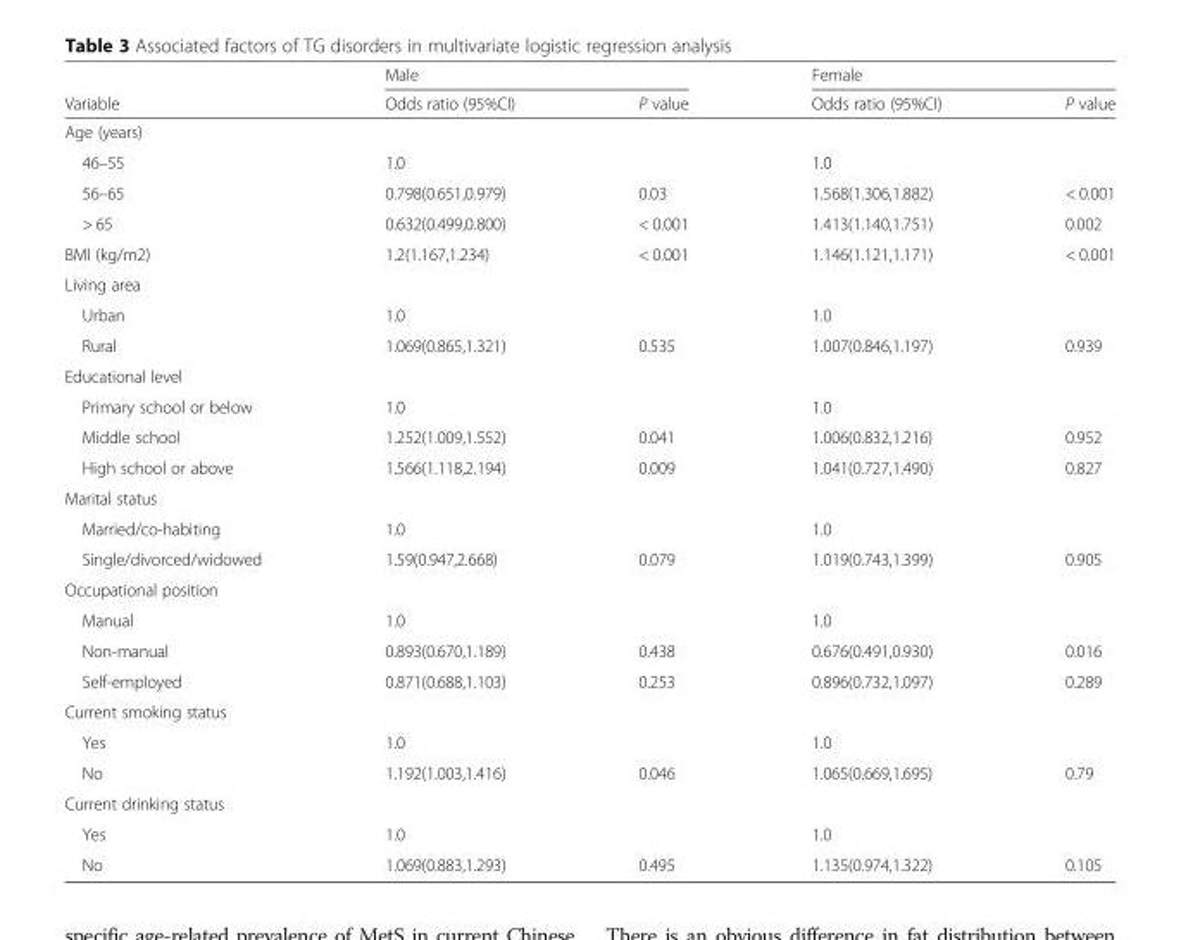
<table><thead><tr><td rowspan="2">Variable</td><td colspan="2">Male</td><td colspan="2">Female</td></tr><tr><td>Odds ratio (95%CI)</td><td>P value</td><td>Odds ratio (95%CI)</td><td>P value</td></tr></thead><tbody><tr><td colspan="5">Age (years)</td></tr><tr><td>46–55</td><td>1.0</td><td></td><td>1.0</td><td></td></tr><tr><td>56–65</td><td>0.798(0.651,0.979)</td><td>0.03</td><td>1.568(1.306,1.882)</td><td>&lt; 0.001</td></tr><tr><td>&gt; 65</td><td>0.632(0.499,0.800)</td><td>&lt; 0.001</td><td>1.413(1.140,1.751)</td><td>0.002</td></tr><tr><td>BMI (kg/m2)</td><td>1.2(1.167,1.234)</td><td>&lt; 0.001</td><td>1.146(1.121,1.171)</td><td>&lt; 0.001</td></tr><tr><td colspan="5">Living area</td></tr><tr><td>Urban</td><td>1.0</td><td></td><td>1.0</td><td></td></tr><tr><td>Rural</td><td>1.069(0.865,1.321)</td><td>0.535</td><td>1.007(0.846,1.197)</td><td>0.939</td></tr><tr><td colspan="5">Educational level</td></tr><tr><td>Primary school or below</td><td>1.0</td><td></td><td>1.0</td><td></td></tr><tr><td>Middle school</td><td>1.252(1.009,1.552)</td><td>0.041</td><td>1.006(0.832,1.216)</td><td>0.952</td></tr><tr><td>High school or above</td><td>1.566(1.118,2.194)</td><td>0.009</td><td>1.041(0.727,1.490)</td><td>0.827</td></tr><tr><td colspan="5">Marital status</td></tr><tr><td>Married/co-habiting</td><td>1.0</td><td></td><td>1.0</td><td></td></tr><tr><td>Single/divorced/widowed</td><td>1.59(0.947,2.668)</td><td>0.079</td><td>1.019(0.743,1.399)</td><td>0.905</td></tr><tr><td colspan="5">Occupational position</td></tr><tr><td>Manual</td><td>1.0</td><td></td><td>1.0</td><td></td></tr><tr><td>Non-manual</td><td>0.893(0.670,1.189)</td><td>0.438</td><td>0.676(0.491,0.930)</td><td>0.016</td></tr><tr><td>Self-employed</td><td>0.871(0.688,1.103)</td><td>0.253</td><td>0.896(0.732,1.097)</td><td>0.289</td></tr><tr><td colspan="5">Current smoking status</td></tr><tr><td>Yes</td><td>1.0</td><td></td><td>1.0</td><td></td></tr><tr><td>No</td><td>1.192(1.003,1.416)</td><td>0.046</td><td>1.065(0.669,1.695)</td><td>0.79</td></tr><tr><td colspan="5">Current drinking status</td></tr><tr><td>Yes</td><td>1.0</td><td></td><td>1.0</td><td></td></tr><tr><td>No</td><td>1.069(0.883,1.293)</td><td>0.495</td><td>1.135(0.974,1.322)</td><td>0.105</td></tr></tbody></table>